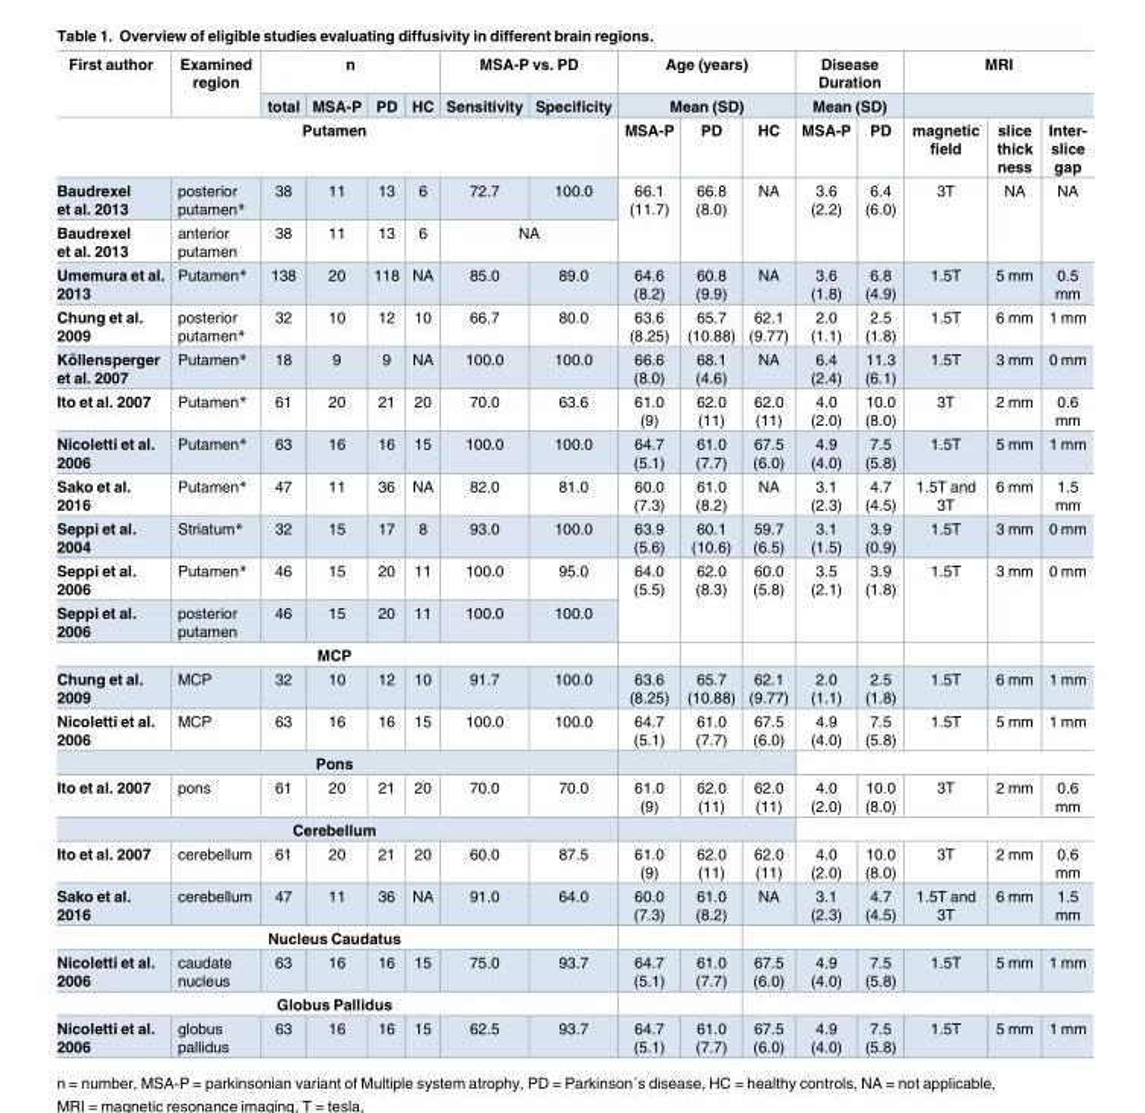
<table><thead><tr><td rowspan="2">First author</td><td rowspan="2">Examined region</td><td colspan="4">n</td><td colspan="2">MSA-P vs. PD</td><td rowspan="2" colspan="3">Age (years) Mean (SD)</td><td rowspan="2" colspan="2">Disease Duration Mean (SD)</td><td colspan="3">MRI</td></tr><tr><td>total</td><td>MSA-P</td><td>PD</td><td>HC</td><td>Sensitivity</td><td>Specificity</td><td rowspan="2">magnetic field</td><td rowspan="2">slice thick ness</td><td rowspan="2">Inter- slice gap</td></tr><tr><td colspan="8">Putamen</td><td>MSA-P</td><td>PD</td><td>HC</td><td>MSA-P</td><td>PD</td></tr></thead><tbody><tr><td>Baudrexel et al. 2013</td><td>posterior putamen*</td><td>38</td><td>11</td><td>13</td><td>6</td><td>72.7</td><td>100.0</td><td rowspan="2">66.1 (11.7)</td><td rowspan="2">66.8 (8.0)</td><td rowspan="2">NA</td><td rowspan="2">3.6 (2.2)</td><td rowspan="2">6.4 (6.0)</td><td rowspan="2">3T</td><td rowspan="2">NA</td><td rowspan="2">NA</td></tr><tr><td>Baudrexel et al. 2013</td><td>anterior putamen</td><td>38</td><td>11</td><td>13</td><td>6</td><td colspan="2">NA</td></tr><tr><td>Umemura et al. 2013</td><td>Putamen*</td><td>138</td><td>20</td><td>118</td><td>NA</td><td>85.0</td><td>89.0</td><td>64.6 (8.2)</td><td>60.8 (9.9)</td><td>NA</td><td>3.6 (1.8)</td><td>6.8 (4.9)</td><td>1.5T</td><td>5 mm</td><td>0.5 mm</td></tr><tr><td>Chung et al. 2009</td><td>posterior putamen*</td><td>32</td><td>10</td><td>12</td><td>10</td><td>66.7</td><td>80.0</td><td>63.6 (8.25)</td><td>65.7 (10.88)</td><td>62.1 (9.77)</td><td>2.0 (1.1)</td><td>2.5 (1.8)</td><td>1.5T</td><td>6 mm</td><td>1 mm</td></tr><tr><td>Ko¨llensperger et al. 2007</td><td>Putamen*</td><td>18</td><td>9</td><td>9</td><td>NA</td><td>100.0</td><td>100.0</td><td>66.6 (8.0)</td><td>68.1 (4.6)</td><td>NA</td><td>6.4 (2.4)</td><td>11.3 (6.1)</td><td>1.5T</td><td>3 mm</td><td>0 mm</td></tr><tr><td>Ito et al. 2007</td><td>Putamen*</td><td>61</td><td>20</td><td>21</td><td>20</td><td>70.0</td><td>63.6</td><td>61.0 (9)</td><td>62.0 (11)</td><td>62.0 (11)</td><td>4.0 (2.0)</td><td>10.0 (8.0)</td><td>3T</td><td>2 mm</td><td>0.6 mm</td></tr><tr><td>Nicoletti et al. 2006</td><td>Putamen*</td><td>63</td><td>16</td><td>16</td><td>15</td><td>100.0</td><td>100.0</td><td>64.7 (5.1)</td><td>61.0 (7.7)</td><td>67.5 (6.0)</td><td>4.9 (4.0)</td><td>7.5 (5.8)</td><td>1.5T</td><td>5 mm</td><td>1 mm</td></tr><tr><td>Sako et al. 2016</td><td>Putamen*</td><td>47</td><td>11</td><td>36</td><td>NA</td><td>82.0</td><td>81.0</td><td>60.0 (7.3)</td><td>61.0 (8.2)</td><td>NA</td><td>3.1 (2.3)</td><td>4.7 (4.5)</td><td>1.5T and 3T</td><td>6 mm</td><td>1.5 mm</td></tr><tr><td>Seppi et al. 2004</td><td>Striatum*</td><td>32</td><td>15</td><td>17</td><td>8</td><td>93.0</td><td>100.0</td><td>63.9 (5.6)</td><td>60.1 (10.6)</td><td>59.7 (6.5)</td><td>3.1 (1.5)</td><td>3.9 (0.9)</td><td>1.5T</td><td>3 mm</td><td>0 mm</td></tr><tr><td>Seppi et al. 2006</td><td>Putamen*</td><td>46</td><td>15</td><td>20</td><td>11</td><td>100.0</td><td>95.0</td><td rowspan="2">64.0 (5.5)</td><td rowspan="2">62.0 (8.3)</td><td rowspan="2">60.0 (5.8)</td><td rowspan="2">3.5 (2.1)</td><td rowspan="2">3.9 (1.8)</td><td rowspan="2">1.5T</td><td rowspan="2">3 mm</td><td rowspan="2">0 mm</td></tr><tr><td>Seppi et al. 2006</td><td>posterior putamen</td><td>46</td><td>15</td><td>20</td><td>11</td><td>100.0</td><td>100.0</td></tr><tr><td colspan="16">MCP</td></tr><tr><td>Chung et al. 2009</td><td>MCP</td><td>32</td><td>10</td><td>12</td><td>10</td><td>91.7</td><td>100.0</td><td>63.6 (8.25)</td><td>65.7 (10.88)</td><td>62.1 (9.77)</td><td>2.0 (1.1)</td><td>2.5 (1.8)</td><td>1.5T</td><td>6 mm</td><td>1 mm</td></tr><tr><td>Nicoletti et al. 2006</td><td>MCP</td><td>63</td><td>16</td><td>16</td><td>15</td><td>100.0</td><td>100.0</td><td>64.7 (5.1)</td><td>61.0 (7.7)</td><td>67.5 (6.0)</td><td>4.9 (4.0)</td><td>7.5 (5.8)</td><td>1.5T</td><td>5 mm</td><td>1 mm</td></tr><tr><td colspan="16">Pons</td></tr><tr><td>Ito et al. 2007</td><td>pons</td><td>61</td><td>20</td><td>21</td><td>20</td><td>70.0</td><td>70.0</td><td>61.0 (9)</td><td>62.0 (11)</td><td>62.0 (11)</td><td>4.0 (2.0)</td><td>10.0 (8.0)</td><td>3T</td><td>2 mm</td><td>0.6 mm</td></tr><tr><td colspan="16">Cerebellum</td></tr><tr><td>Ito et al. 2007</td><td>cerebellum</td><td>61</td><td>20</td><td>21</td><td>20</td><td>60.0</td><td>87.5</td><td>61.0 (9)</td><td>62.0 (11)</td><td>62.0 (11)</td><td>4.0 (2.0)</td><td>10.0 (8.0)</td><td>3T</td><td>2 mm</td><td>0.6 mm</td></tr><tr><td>Sako et al. 2016</td><td>cerebellum</td><td>47</td><td>11</td><td>36</td><td>NA</td><td>91.0</td><td>64.0</td><td>60.0 (7.3)</td><td>61.0 (8.2)</td><td>NA</td><td>3.1 (2.3)</td><td>4.7 (4.5)</td><td>1.5T and 3T</td><td>6 mm</td><td>1.5 mm</td></tr><tr><td colspan="16">Nucleus Caudatus</td></tr><tr><td>Nicoletti et al. 2006</td><td>caudate nucleus</td><td>63</td><td>16</td><td>16</td><td>15</td><td>75.0</td><td>93.7</td><td>64.7 (5.1)</td><td>61.0 (7.7)</td><td>67.5 (6.0)</td><td>4.9 (4.0)</td><td>7.5 (5.8)</td><td>1.5T</td><td>5 mm</td><td>1 mm</td></tr><tr><td colspan="16">Globus Pallidus</td></tr><tr><td>Nicoletti et al. 2006</td><td>globus pallidus</td><td>63</td><td>16</td><td>16</td><td>15</td><td>62.5</td><td>93.7</td><td>64.7 (5.1)</td><td>61.0 (7.7)</td><td>67.5 (6.0)</td><td>4.9 (4.0)</td><td>7.5 (5.8)</td><td>1.5T</td><td>5 mm</td><td>1 mm</td></tr></tbody></table>